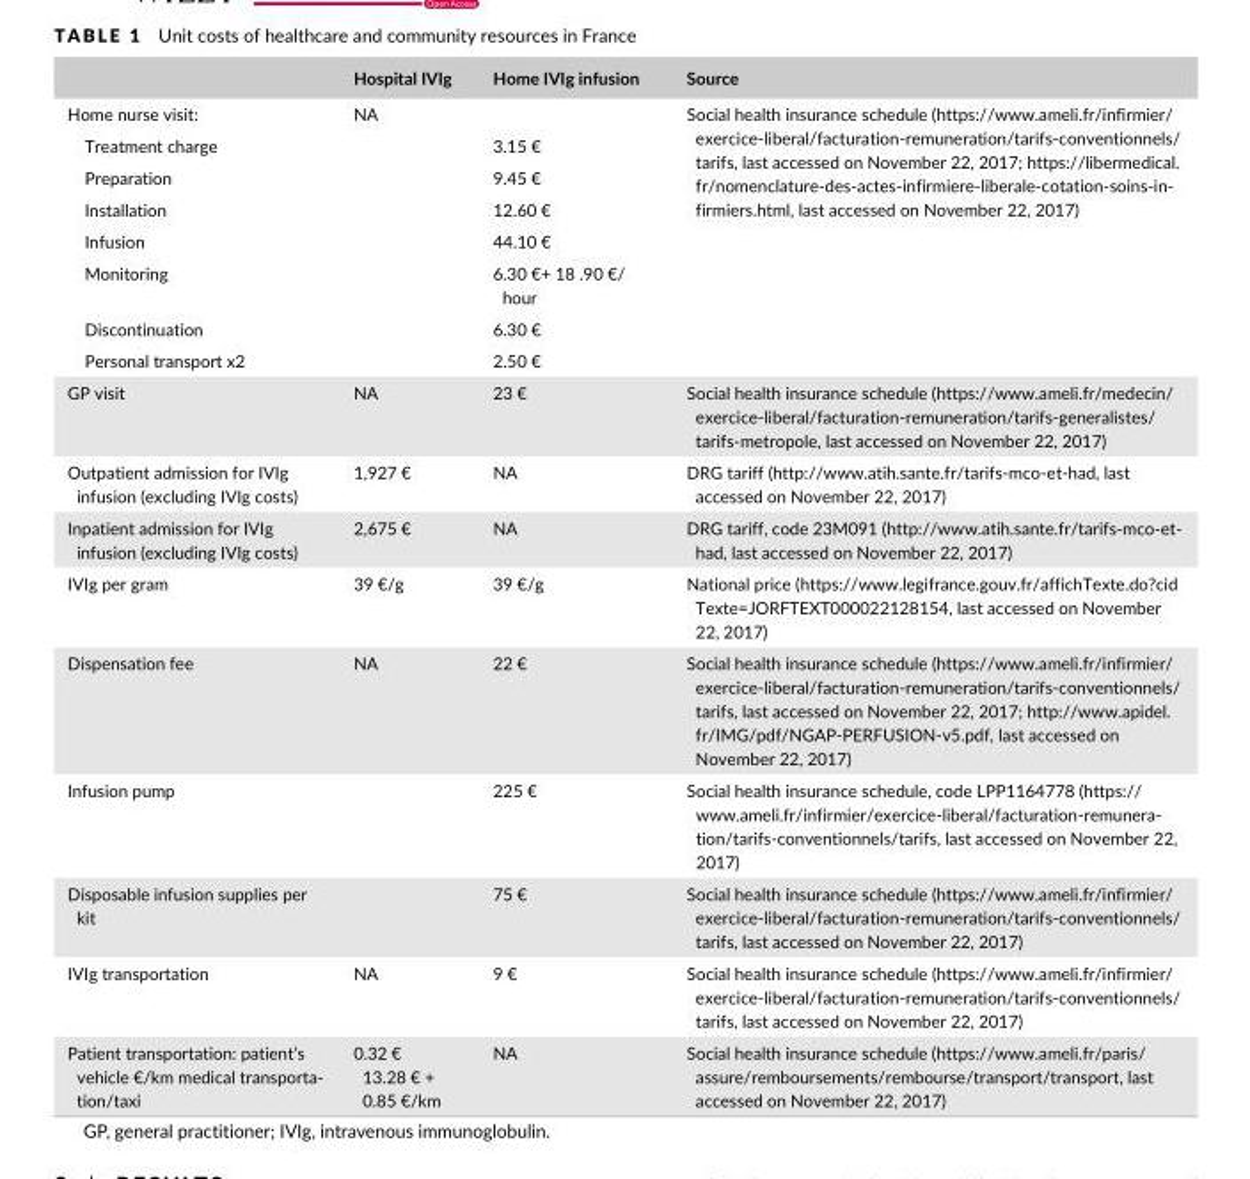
<table><thead><tr><td></td><td>Hospital IVIg</td><td>Home IVIg infusion</td><td>Source</td></tr></thead><tbody><tr><td>Home nurse visit:</td><td>NA</td><td></td><td rowspan="8">Social health insurance schedule (https://www.ameli.fr/infirmier/ exercice-liberal/facturation-remuneration/tarifs-conventionnels/ tarifs, last accessed on November 22, 2017; https://libermedical. fr/nomenclature-des-actes-infirmiere-liberale-cotation-soins-in- firmiers.html, last accessed on November 22, 2017)</td></tr><tr><td>Treatment charge</td><td></td><td>3.15 €</td></tr><tr><td>Preparation</td><td></td><td>9.45 €</td></tr><tr><td>Installation</td><td></td><td>12.60 €</td></tr><tr><td>Infusion</td><td></td><td>44.10 €</td></tr><tr><td>Monitoring</td><td></td><td>6.30 €+ 18 .90 €/ hour</td></tr><tr><td>Discontinuation</td><td></td><td>6.30 €</td></tr><tr><td>Personal transport x2</td><td></td><td>2.50 €</td></tr><tr><td>GP visit</td><td>NA</td><td>23 €</td><td>Social health insurance schedule (https://www.ameli.fr/medecin/ exercice-liberal/facturation-remuneration/tarifs-generalistes/ tarifs-metropole, last accessed on November 22, 2017)</td></tr><tr><td>Outpatient admission for IVIg infusion (excluding IVIg costs)</td><td>1,927 €</td><td>NA</td><td>DRG tariff (http://www.atih.sante.fr/tarifs-mco-et-had, last accessed on November 22, 2017)</td></tr><tr><td>Inpatient admission for IVIg infusion (excluding IVIg costs)</td><td>2,675 €</td><td>NA</td><td>DRG tariff, code 23M091 (http://www.atih.sante.fr/tarifs-mco-et- had, last accessed on November 22, 2017)</td></tr><tr><td>IVIg per gram</td><td>39 €/g</td><td>39 €/g</td><td>National price (https://www.legifrance.gouv.fr/affichTexte.do?cid Texte=JORFTEXT000022128154, last accessed on November 22, 2017)</td></tr><tr><td>Dispensation fee</td><td>NA</td><td>22 €</td><td>Social health insurance schedule (https://www.ameli.fr/infirmier/ exercice-liberal/facturation-remuneration/tarifs-conventionnels/ tarifs, last accessed on November 22, 2017; http://www.apidel. fr/IMG/pdf/NGAP-PERFUSION-v5.pdf, last accessed on November 22, 2017)</td></tr><tr><td>Infusion pump</td><td></td><td>225 €</td><td>Social health insurance schedule, code LPP1164778 (https:// www.ameli.fr/infirmier/exercice-liberal/facturation-remunera- tion/tarifs-conventionnels/tarifs, last accessed on November 22, 2017)</td></tr><tr><td>Disposable infusion supplies per kit</td><td></td><td>75 €</td><td>Social health insurance schedule (https://www.ameli.fr/infirmier/ exercice-liberal/facturation-remuneration/tarifs-conventionnels/ tarifs, last accessed on November 22, 2017)</td></tr><tr><td>IVIg transportation</td><td>NA</td><td>9 €</td><td>Social health insurance schedule (https://www.ameli.fr/infirmier/ exercice-liberal/facturation-remuneration/tarifs-conventionnels/ tarifs, last accessed on November 22, 2017)</td></tr><tr><td>Patient transportation: patient’s vehicle €/km medical transporta- tion/taxi</td><td>0.32 € 13.28 € + 0.85 €/km</td><td>NA</td><td>Social health insurance schedule (https://www.ameli.fr/paris/ assure/remboursements/rembourse/transport/transport, last accessed on November 22, 2017)</td></tr></tbody></table>